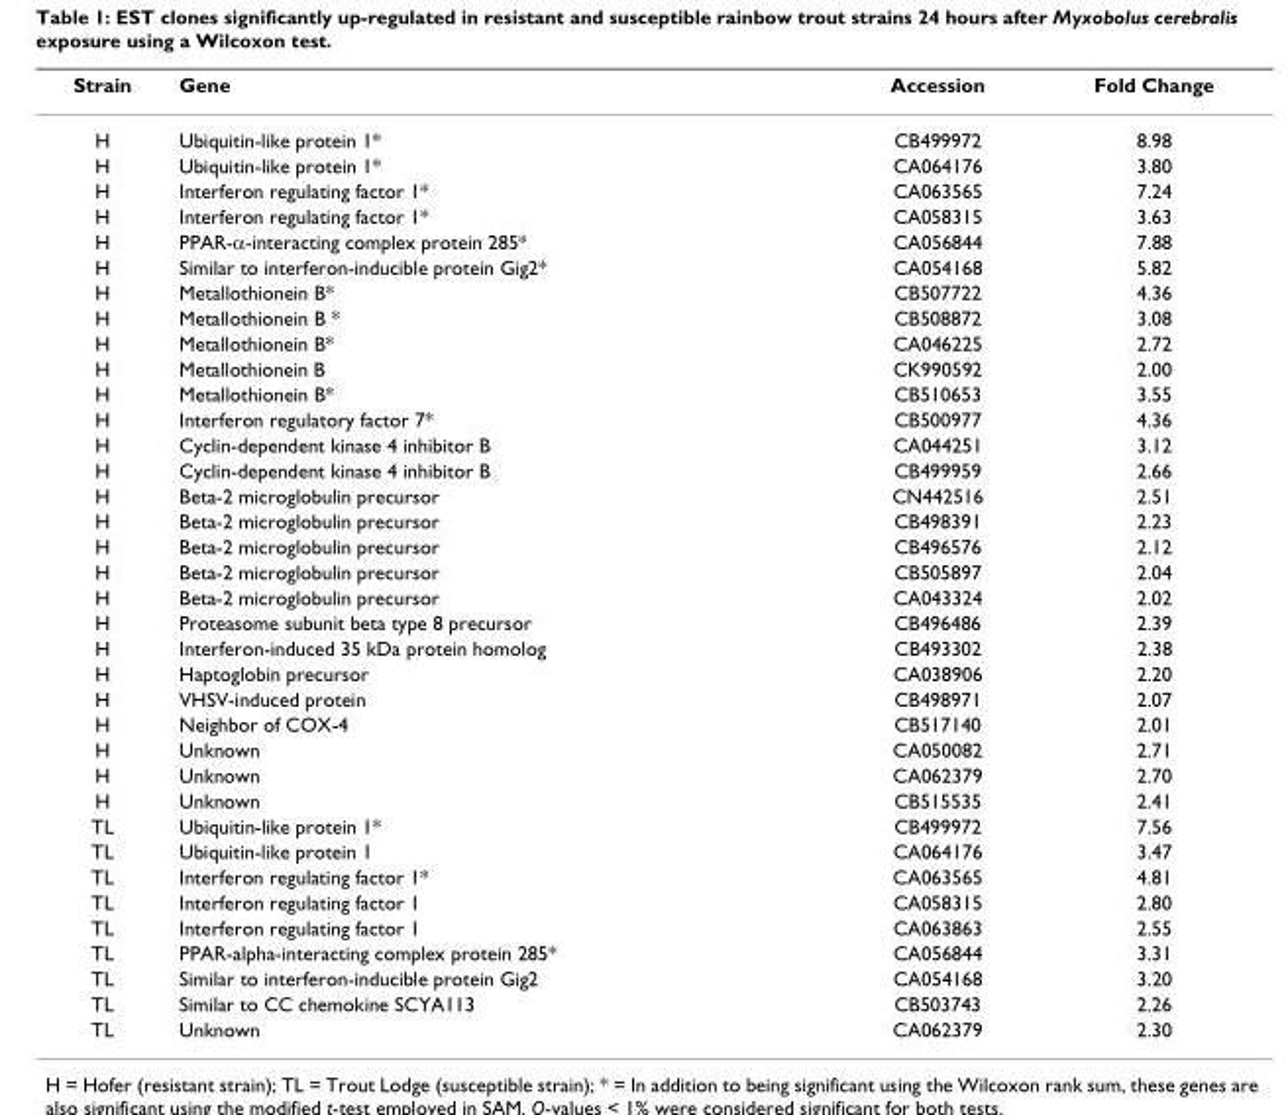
<table><thead><tr><td>Strain</td><td>Gene</td><td>Accession</td><td>Fold Change</td></tr></thead><tbody><tr><td>H</td><td>Ubiquitin-like protein 1*</td><td>CB499972</td><td>8.98</td></tr><tr><td>H</td><td>Ubiquitin-like protein 1*</td><td>CA064176</td><td>3.80</td></tr><tr><td>H</td><td>Interferon regulating factor 1*</td><td>CA063565</td><td>7.24</td></tr><tr><td>H</td><td>Interferon regulating factor 1*</td><td>CA058315</td><td>3.63</td></tr><tr><td>H</td><td>PPAR-α-interacting complex protein 285*</td><td>CA056844</td><td>7.88</td></tr><tr><td>H</td><td>Similar to interferon-inducible protein Gig2*</td><td>CA054168</td><td>5.82</td></tr><tr><td>H</td><td>Metallothionein B*</td><td>CB507722</td><td>4.36</td></tr><tr><td>H</td><td>Metallothionein B *</td><td>CB508872</td><td>3.08</td></tr><tr><td>H</td><td>Metallothionein B*</td><td>CA046225</td><td>2.72</td></tr><tr><td>H</td><td>Metallothionein B</td><td>CK990592</td><td>2.00</td></tr><tr><td>H</td><td>Metallothionein B*</td><td>CB510653</td><td>3.55</td></tr><tr><td>H</td><td>Interferon regulatory factor 7*</td><td>CB500977</td><td>4.36</td></tr><tr><td>H</td><td>Cyclin-dependent kinase 4 inhibitor B</td><td>CA044251</td><td>3.12</td></tr><tr><td>H</td><td>Cyclin-dependent kinase 4 inhibitor B</td><td>CB499959</td><td>2.66</td></tr><tr><td>H</td><td>Beta-2 microglobulin precursor</td><td>CN442516</td><td>2.51</td></tr><tr><td>H</td><td>Beta-2 microglobulin precursor</td><td>CB498391</td><td>2.23</td></tr><tr><td>H</td><td>Beta-2 microglobulin precursor</td><td>CB496576</td><td>2.12</td></tr><tr><td>H</td><td>Beta-2 microglobulin precursor</td><td>CB505897</td><td>2.04</td></tr><tr><td>H</td><td>Beta-2 microglobulin precursor</td><td>CA043324</td><td>2.02</td></tr><tr><td>H</td><td>Proteasome subunit beta type 8 precursor</td><td>CB496486</td><td>2.39</td></tr><tr><td>H</td><td>Interferon-induced 35 kDa protein homolog</td><td>CB493302</td><td>2.38</td></tr><tr><td>H</td><td>Haptoglobin precursor</td><td>CA038906</td><td>2.20</td></tr><tr><td>H</td><td>VHSV-induced protein</td><td>CB498971</td><td>2.07</td></tr><tr><td>H</td><td>Neighbor of COX-4</td><td>CB517140</td><td>2.01</td></tr><tr><td>H</td><td>Unknown</td><td>CA050082</td><td>2.71</td></tr><tr><td>H</td><td>Unknown</td><td>CA062379</td><td>2.70</td></tr><tr><td>H</td><td>Unknown</td><td>CB515535</td><td>2.41</td></tr><tr><td>TL</td><td>Ubiquitin-like protein 1*</td><td>CB499972</td><td>7.56</td></tr><tr><td>TL</td><td>Ubiquitin-like protein 1</td><td>CA064176</td><td>3.47</td></tr><tr><td>TL</td><td>Interferon regulating factor 1*</td><td>CA063565</td><td>4.81</td></tr><tr><td>TL</td><td>Interferon regulating factor 1</td><td>CA058315</td><td>2.80</td></tr><tr><td>TL</td><td>Interferon regulating factor 1</td><td>CA063863</td><td>2.55</td></tr><tr><td>TL</td><td>PPAR-alpha-interacting complex protein 285*</td><td>CA056844</td><td>3.31</td></tr><tr><td>TL</td><td>Similar to interferon-inducible protein Gig2</td><td>CA054168</td><td>3.20</td></tr><tr><td>TL</td><td>Similar to CC chemokine SCYA113</td><td>CB503743</td><td>2.26</td></tr><tr><td>TL</td><td>Unknown</td><td>CA062379</td><td>2.30</td></tr></tbody></table>